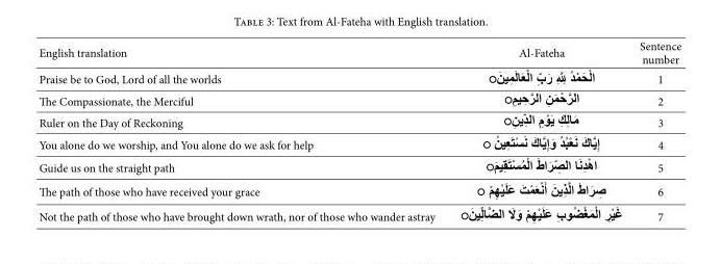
<table><thead><tr><td>English translation</td><td>Al-Fateha</td><td>Sentence number</td></tr></thead><tbody><tr><td>Praise be to God, Lord of all the worlds</td><td></td><td>1</td></tr><tr><td>The Compassionate, the Merciful</td><td></td><td>2</td></tr><tr><td>Ruler on the Day of Reckoning</td><td></td><td>3</td></tr><tr><td>You alone do we worship, and You alone do we ask for help</td><td></td><td>4</td></tr><tr><td>Guide us on the straight path</td><td></td><td>5</td></tr><tr><td>The path of those who have received your grace</td><td></td><td>6</td></tr><tr><td>Not the path of those who have brought down wrath, nor of those who wander astray</td><td></td><td>7</td></tr></tbody></table>